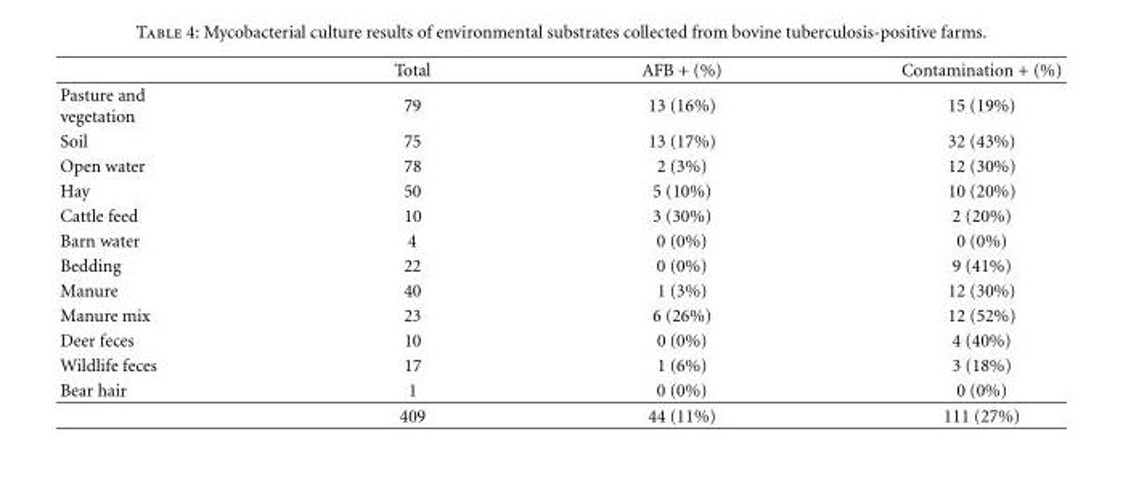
<table><thead><tr><td></td><td>Total</td><td>AFB + (%)</td><td>Contamination + (%)</td></tr></thead><tbody><tr><td>Pasture and vegetation</td><td>79</td><td>13 (16%)</td><td>15 (19%)</td></tr><tr><td>Soil</td><td>75</td><td>13 (17%)</td><td>32 (43%)</td></tr><tr><td>Open water</td><td>78</td><td>2 (3%)</td><td>12 (30%)</td></tr><tr><td>Hay</td><td>50</td><td>5 (10%)</td><td>10 (20%)</td></tr><tr><td>Cattle feed</td><td>10</td><td>3 (30%)</td><td>2 (20%)</td></tr><tr><td>Barn water</td><td>4</td><td>0 (0%)</td><td>0 (0%)</td></tr><tr><td>Bedding</td><td>22</td><td>0 (0%)</td><td>9 (41%)</td></tr><tr><td>Manure</td><td>40</td><td>1 (3%)</td><td>12 (30%)</td></tr><tr><td>Manure mix</td><td>23</td><td>6 (26%)</td><td>12 (52%)</td></tr><tr><td>Deer feces</td><td>10</td><td>0 (0%)</td><td>4 (40%)</td></tr><tr><td>Wildlife feces</td><td>17</td><td>1 (6%)</td><td>3 (18%)</td></tr><tr><td rowspan="2">Bear hair</td><td>1</td><td>0 (0%)</td><td>0 (0%)</td></tr><tr><td>409</td><td>44 (11%)</td><td>111 (27%)</td></tr></tbody></table>